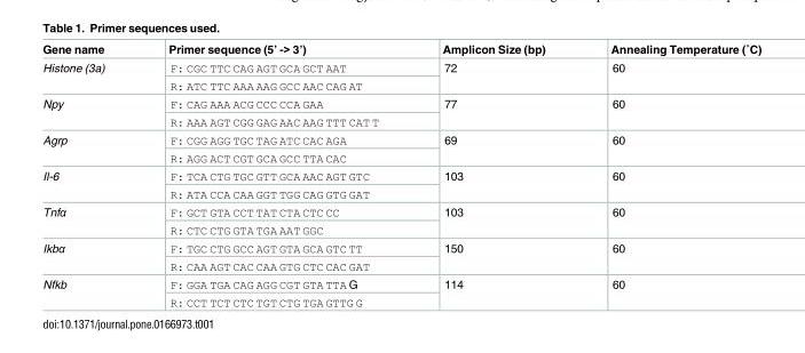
<table><thead><tr><td>Gene name</td><td>Primer sequence (5’ -&gt; 3’)</td><td>Amplicon Size (bp)</td><td>Annealing Temperature (˚C)</td></tr></thead><tbody><tr><td rowspan="2">Histone (3a)</td><td>F: CGC TTC CAG AGT GCA GCT AAT</td><td rowspan="2">72</td><td rowspan="2">60</td></tr><tr><td>R: ATC TTC AAA AAG GCC AAC CAG AT</td></tr><tr><td rowspan="2">Npy</td><td>F: CAG AAA ACG CCC CCA GAA</td><td rowspan="2">77</td><td rowspan="2">60</td></tr><tr><td>R: AAA AGT CGG GAG AAC AAG TTT CAT T</td></tr><tr><td rowspan="2">Agrp</td><td>F: CGG AGG TGC TAG ATC CAC AGA</td><td rowspan="2">69</td><td rowspan="2">60</td></tr><tr><td>R: AGG ACT CGT GCA GCC TTA CAC</td></tr><tr><td rowspan="2">Il-6</td><td>F: TCA CTG TGC GTT GCA AAC AGT GTC</td><td rowspan="2">103</td><td rowspan="2">60</td></tr><tr><td>R: ATA CCA CAA GGT TGG CAG GTG GAT</td></tr><tr><td rowspan="2">Tnfα</td><td>F: GCT GTA CCT TAT CTA CTC CC</td><td rowspan="2">103</td><td rowspan="2">60</td></tr><tr><td>R: CTC CTG GTA TGA AAT GGC</td></tr><tr><td rowspan="2">Ikbα</td><td>F: TGC CTG GCC AGT GTA GCA GTC TT</td><td rowspan="2">150</td><td rowspan="2">60</td></tr><tr><td>R: CAA AGT CAC CAA GTG CTC CAC GAT</td></tr><tr><td rowspan="2">Nfkb</td><td>F: GGA TGA CAG AGG CGT GTA TTA G</td><td rowspan="2">114</td><td rowspan="2">60</td></tr><tr><td>R: CCT TCT CTC TGT CTG TGA GTTG G</td></tr></tbody></table>